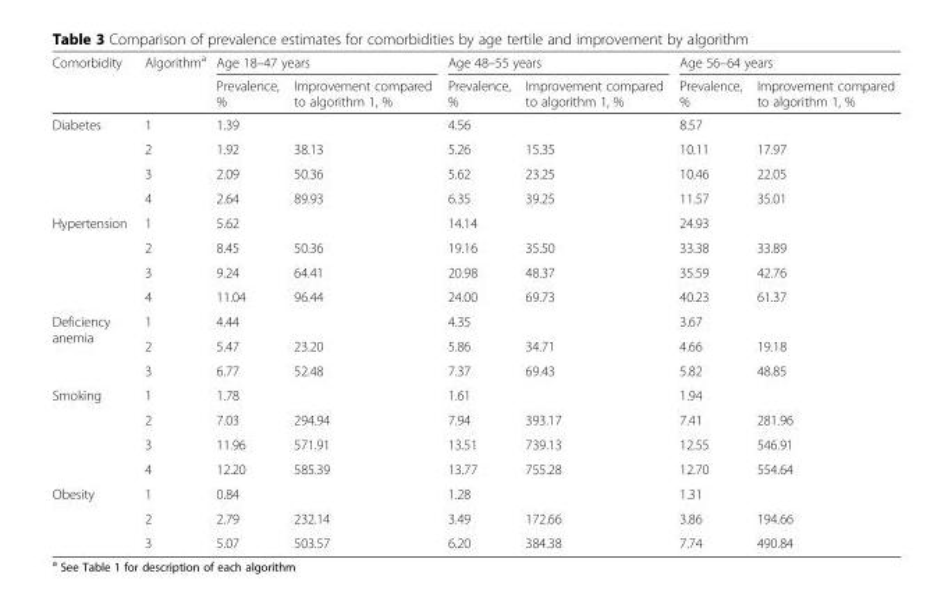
<table><thead><tr><td rowspan="2">Comorbidity</td><td rowspan="2">Algorithm<sup>a</sup></td><td colspan="2">Age 18–47 years</td><td colspan="2">Age 48–55 years</td><td colspan="2">Age 56–64 years</td></tr><tr><td>Prevalence, %</td><td>Improvement compared to algorithm 1, %</td><td>Prevalence, %</td><td>Improvement compared to algorithm 1, %</td><td>Prevalence, %</td><td>Improvement compared to algorithm 1, %</td></tr></thead><tbody><tr><td rowspan="4">Diabetes</td><td>1</td><td>1.39</td><td></td><td>4.56</td><td></td><td>8.57</td><td></td></tr><tr><td>2</td><td>1.92</td><td>38.13</td><td>5.26</td><td>15.35</td><td>10.11</td><td>17.97</td></tr><tr><td>3</td><td>2.09</td><td>50.36</td><td>5.62</td><td>23.25</td><td>10.46</td><td>22.05</td></tr><tr><td>4</td><td>2.64</td><td>89.93</td><td>6.35</td><td>39.25</td><td>11.57</td><td>35.01</td></tr><tr><td rowspan="4">Hypertension</td><td>1</td><td>5.62</td><td></td><td>14.14</td><td></td><td>24.93</td><td></td></tr><tr><td>2</td><td>8.45</td><td>50.36</td><td>19.16</td><td>35.50</td><td>33.38</td><td>33.89</td></tr><tr><td>3</td><td>9.24</td><td>64.41</td><td>20.98</td><td>48.37</td><td>35.59</td><td>42.76</td></tr><tr><td>4</td><td>11.04</td><td>96.44</td><td>24.00</td><td>69.73</td><td>40.23</td><td>61.37</td></tr><tr><td rowspan="3">Deficiency anemia</td><td>1</td><td>4.44</td><td></td><td>4.35</td><td></td><td>3.67</td><td></td></tr><tr><td>2</td><td>5.47</td><td>23.20</td><td>5.86</td><td>34.71</td><td>4.66</td><td>19.18</td></tr><tr><td>3</td><td>6.77</td><td>52.48</td><td>7.37</td><td>69.43</td><td>5.82</td><td>48.85</td></tr><tr><td rowspan="4">Smoking</td><td>1</td><td>1.78</td><td></td><td>1.61</td><td></td><td>1.94</td><td></td></tr><tr><td>2</td><td>7.03</td><td>294.94</td><td>7.94</td><td>393.17</td><td>7.41</td><td>281.96</td></tr><tr><td>3</td><td>11.96</td><td>571.91</td><td>13.51</td><td>739.13</td><td>12.55</td><td>546.91</td></tr><tr><td>4</td><td>12.20</td><td>585.39</td><td>13.77</td><td>755.28</td><td>12.70</td><td>554.64</td></tr><tr><td rowspan="3">Obesity</td><td>1</td><td>0.84</td><td></td><td>1.28</td><td></td><td>1.31</td><td></td></tr><tr><td>2</td><td>2.79</td><td>232.14</td><td>3.49</td><td>172.66</td><td>3.86</td><td>194.66</td></tr><tr><td>3</td><td>5.07</td><td>503.57</td><td>6.20</td><td>384.38</td><td>7.74</td><td>490.84</td></tr></tbody></table>